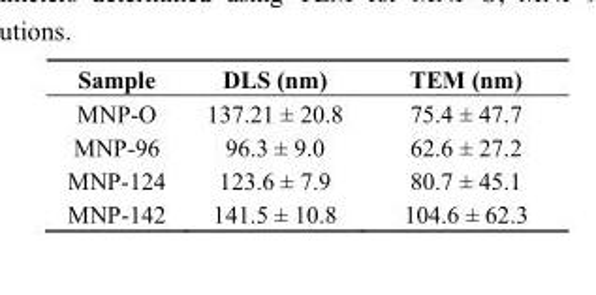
<table><thead><tr><td>Sample</td><td>DLS (nm)</td><td>TEM (nm)</td></tr></thead><tbody><tr><td>MNP-O</td><td>137.21 ± 20.8</td><td>75.4 ± 47.7</td></tr><tr><td>MNP-96</td><td>96.3 ± 9.0</td><td>62.6 ± 27.2</td></tr><tr><td>MNP-124</td><td>123.6 ± 7.9</td><td>80.7 ± 45.1</td></tr><tr><td>MNP-142</td><td>141.5 ± 10.8</td><td>104.6 ± 62.3</td></tr></tbody></table>